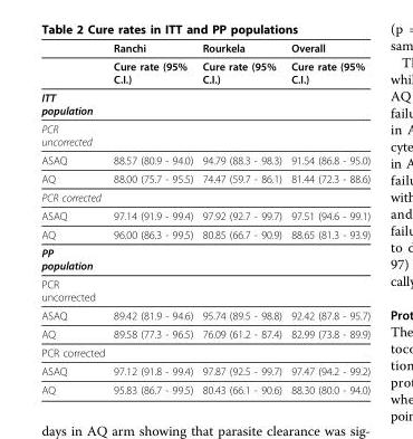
<table><thead><tr><td></td><td>Ranchi</td><td>Rourkela</td><td>Overall</td></tr></thead><tbody><tr><td></td><td>Cure rate (95% C.I.)</td><td>Cure rate (95% C.I.)</td><td>Cure rate (95% C.I.)</td></tr><tr><td colspan="4">ITT population</td></tr><tr><td colspan="4">PCR uncorrected</td></tr><tr><td>ASAQ</td><td>88.57 (80.9 - 94.0)</td><td>94.79 (88.3 - 98.3)</td><td>91.54 (86.8 - 95.0)</td></tr><tr><td>AQ</td><td>88.00 (75.7 - 95.5)</td><td>74.47 (59.7 - 86.1)</td><td>81.44 (72.3 - 88.6)</td></tr><tr><td colspan="4">PCR corrected</td></tr><tr><td>ASAQ</td><td>97.14 (91.9 - 99.4)</td><td>97.92 (92.7 - 99.7)</td><td>97.51 (94.6 - 99.1)</td></tr><tr><td>AQ</td><td>96.00 (86.3 - 99.5)</td><td>80.85 (66.7 - 90.9)</td><td>88.65 (81.3 - 93.9)</td></tr><tr><td colspan="4">PP population</td></tr><tr><td colspan="4">PCR uncorrected</td></tr><tr><td>ASAQ</td><td>89.42 (81.9 - 94.6)</td><td>95.74 (89.5 - 98.8)</td><td>92.42 (87.8 - 95.7)</td></tr><tr><td>AQ</td><td>89.58 (77.3 - 96.5)</td><td>76.09 (61.2 - 87.4)</td><td>82.99 (73.8 - 89.9)</td></tr><tr><td colspan="4">PCR corrected</td></tr><tr><td>ASAQ</td><td>97.12 (91.8 - 99.4)</td><td>97.87 (92.5 - 99.7)</td><td>97.47 (94.2 - 99.2)</td></tr><tr><td>AQ</td><td>95.83 (86.7 - 99.5)</td><td>80.43 (66.1 - 90.6)</td><td>88.30 (80.0 - 94.0)</td></tr></tbody></table>